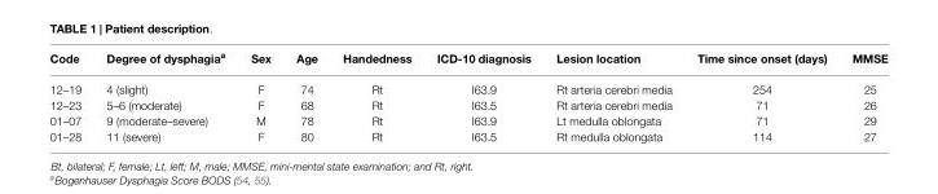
<table><thead><tr><td>Code</td><td>Degree of dysphagia<sup>a</sup></td><td>Sex</td><td>Age</td><td>Handedness</td><td>ICD-10 diagnosis</td><td>Lesion location</td><td>Time since onset (days)</td><td>MMSE</td></tr></thead><tbody><tr><td>12–19</td><td>4 (slight)</td><td>F</td><td>74</td><td>Rt</td><td>I63.9</td><td>Rt arteria cerebri media</td><td>254</td><td>25</td></tr><tr><td>12–23</td><td>5–6 (moderate)</td><td>F</td><td>68</td><td>Rt</td><td>I63.5</td><td>Rt arteria cerebri media</td><td>71</td><td>26</td></tr><tr><td>01–07</td><td>9 (moderate–severe)</td><td>M</td><td>78</td><td>Rt</td><td>I63.9</td><td>Lt medulla oblongata</td><td>71</td><td>29</td></tr><tr><td>01–28</td><td>11 (severe)</td><td>F</td><td>80</td><td>Rt</td><td>I63.5</td><td>Rt medulla oblongata</td><td>114</td><td>27</td></tr></tbody></table>